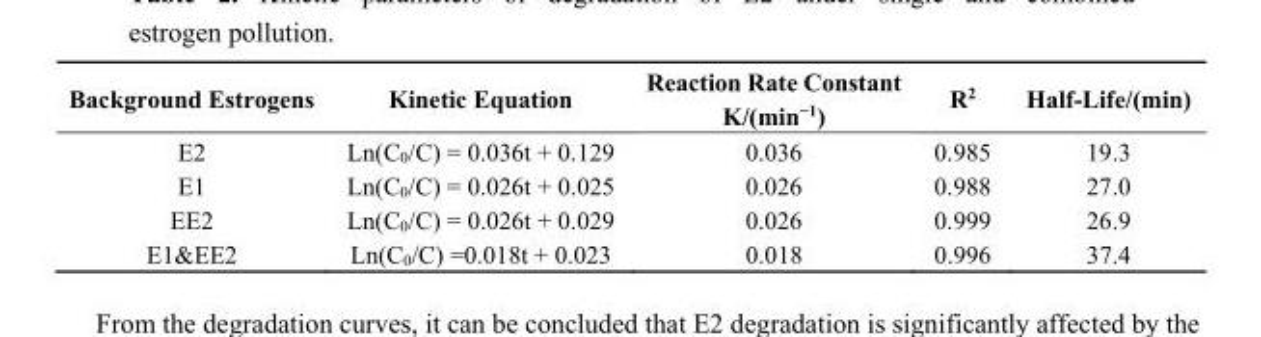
<table><thead><tr><td>Background Estrogens</td><td>Kinetic Equation</td><td>Reaction Rate Constant K/(min<sup>−1</sup>)</td><td>R<sup>2</sup></td><td>Half-Life/(min)</td></tr></thead><tbody><tr><td>E2</td><td>Ln(C<sub>0</sub>/C) = 0.036t + 0.129</td><td>0.036</td><td>0.985</td><td>19.3</td></tr><tr><td>E1</td><td>Ln(C<sub>0</sub>/C) = 0.026t + 0.025</td><td>0.026</td><td>0.988</td><td>27.0</td></tr><tr><td>EE2</td><td>Ln(C<sub>0</sub>/C) = 0.026t + 0.029</td><td>0.026</td><td>0.999</td><td>26.9</td></tr><tr><td>E1&amp;EE2</td><td>Ln(C<sub>0</sub>/C) =0.018t + 0.023</td><td>0.018</td><td>0.996</td><td>37.4</td></tr></tbody></table>